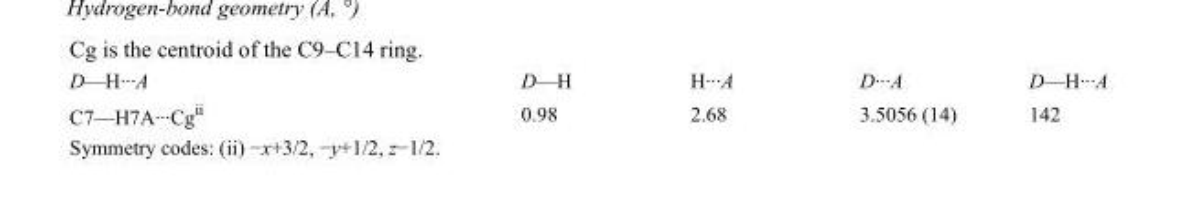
<table><tbody><tr><td>D—H···A</td><td>D—H</td><td>H···A</td><td>D···A</td><td>D—H···A</td></tr><tr><td>C7—H7A···Cg<sup>ii</sup></td><td>0.98</td><td>2.68</td><td>3.5056 (14)</td><td>142</td></tr></tbody></table>